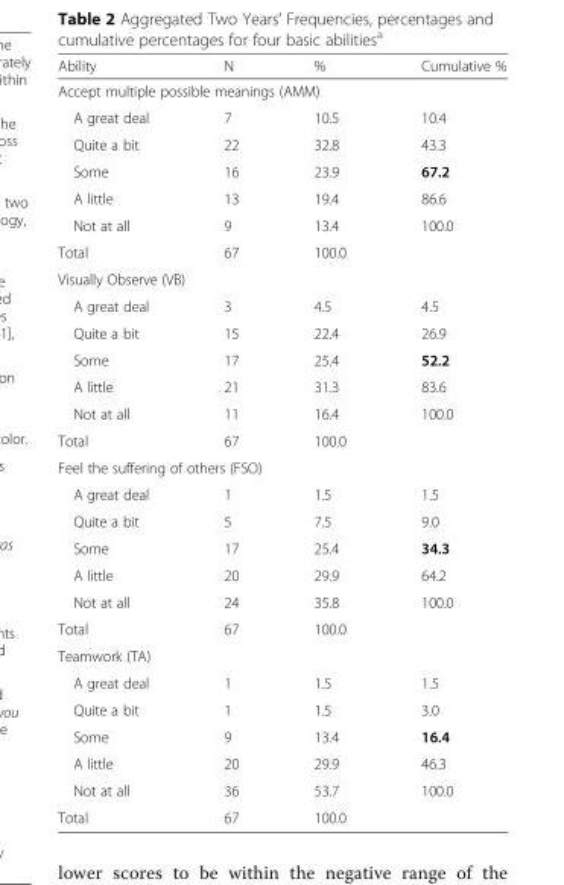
<table><thead><tr><td>Ability</td><td>N</td><td>%</td><td>Cumulative %</td></tr></thead><tbody><tr><td colspan="4">Accept multiple possible meanings (AMM)</td></tr><tr><td>A great deal</td><td>7</td><td>10.5</td><td>10.4</td></tr><tr><td>Quite a bit</td><td>22</td><td>32.8</td><td>43.3</td></tr><tr><td>Some</td><td>16</td><td>23.9</td><td>67.2</td></tr><tr><td>A little</td><td>13</td><td>19.4</td><td>86.6</td></tr><tr><td>Not at all</td><td>9</td><td>13.4</td><td>100.0</td></tr><tr><td>Total</td><td>67</td><td>100.0</td><td></td></tr><tr><td colspan="4">Visually Observe (VB)</td></tr><tr><td>A great deal</td><td>3</td><td>4.5</td><td>4.5</td></tr><tr><td>Quite a bit</td><td>15</td><td>22.4</td><td>26.9</td></tr><tr><td>Some</td><td>17</td><td>25.4</td><td>52.2</td></tr><tr><td>A little</td><td>21</td><td>31.3</td><td>83.6</td></tr><tr><td>Not at all</td><td>11</td><td>16.4</td><td>100.0</td></tr><tr><td>Total</td><td>67</td><td>100.0</td><td></td></tr><tr><td colspan="4">Feel the suffering of others (FSO)</td></tr><tr><td>A great deal</td><td>1</td><td>1.5</td><td>1.5</td></tr><tr><td>Quite a bit</td><td>5</td><td>7.5</td><td>9.0</td></tr><tr><td>Some</td><td>17</td><td>25.4</td><td>34.3</td></tr><tr><td>A little</td><td>20</td><td>29.9</td><td>64.2</td></tr><tr><td>Not at all</td><td>24</td><td>35.8</td><td>100.0</td></tr><tr><td>Total</td><td>67</td><td>100.0</td><td></td></tr><tr><td colspan="4">Teamwork (TA)</td></tr><tr><td>A great deal</td><td>1</td><td>1.5</td><td>1.5</td></tr><tr><td>Quite a bit</td><td>1</td><td>1.5</td><td>3.0</td></tr><tr><td>Some</td><td>9</td><td>13.4</td><td>16.4</td></tr><tr><td>A little</td><td>20</td><td>29.9</td><td>46.3</td></tr><tr><td>Not at all</td><td>36</td><td>53.7</td><td>100.0</td></tr><tr><td>Total</td><td>67</td><td>100.0</td><td></td></tr></tbody></table>